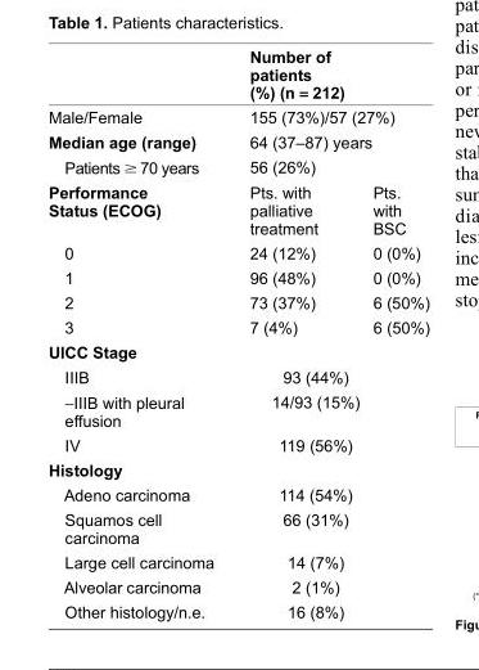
<table><thead><tr><td></td><td colspan="2">Number of patients (%) (n = 212)</td></tr></thead><tbody><tr><td>Male/Female</td><td colspan="2">155 (73%)/57 (27%)</td></tr><tr><td>Median age (range)</td><td colspan="2">64 (37–87) years</td></tr><tr><td>Patients ≥ 70 years</td><td colspan="2">56 (26%)</td></tr><tr><td>Performance Status (ECOG)</td><td>Pts. with palliative treatment</td><td>Pts. with BSC</td></tr><tr><td>0</td><td>24 (12%)</td><td>0 (0%)</td></tr><tr><td>1</td><td>96 (48%)</td><td>0 (0%)</td></tr><tr><td>2</td><td>73 (37%)</td><td>6 (50%)</td></tr><tr><td>3</td><td>7 (4%)</td><td>6 (50%)</td></tr><tr><td colspan="3">UICC Stage</td></tr><tr><td>IIIB</td><td colspan="2">93 (44%)</td></tr><tr><td>−IIIB with pleural effusion</td><td colspan="2">14/93 (15%)</td></tr><tr><td>IV</td><td colspan="2">119 (56%)</td></tr><tr><td colspan="3">Histology</td></tr><tr><td>Adeno carcinoma</td><td colspan="2">114 (54%)</td></tr><tr><td>Squamos cell carcinoma</td><td colspan="2">66 (31%)</td></tr><tr><td>Large cell carcinoma</td><td colspan="2">14 (7%)</td></tr><tr><td>Alveolar carcinoma</td><td colspan="2">2 (1%)</td></tr><tr><td>Other histology/n.e.</td><td colspan="2">16 (8%)</td></tr></tbody></table>